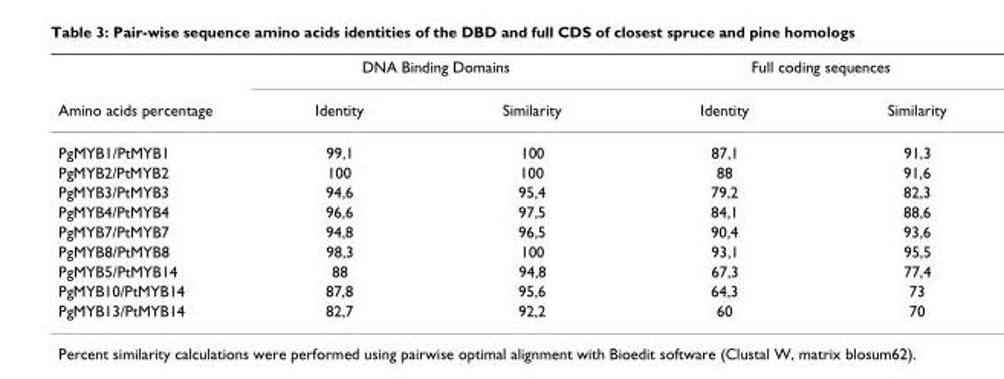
<table><thead><tr><td rowspan="2">Amino acids percentage</td><td colspan="2">DNA Binding Domains</td><td colspan="2">Full coding sequences</td></tr><tr><td>Identity</td><td>Similarity</td><td>Identity</td><td>Similarity</td></tr></thead><tbody><tr><td>PgMYB1/PtMYB1</td><td>99,1</td><td>100</td><td>87,1</td><td>91,3</td></tr><tr><td>PgMYB2/PtMYB2</td><td>100</td><td>100</td><td>88</td><td>91,6</td></tr><tr><td>PgMYB3/PtMYB3</td><td>94,6</td><td>95,4</td><td>79,2</td><td>82,3</td></tr><tr><td>PgMYB4/PtMYB4</td><td>96,6</td><td>97,5</td><td>84,1</td><td>88,6</td></tr><tr><td>PgMYB7/PtMYB7</td><td>94,8</td><td>96,5</td><td>90,4</td><td>93,6</td></tr><tr><td>PgMYB8/PtMYB8</td><td>98,3</td><td>100</td><td>93,1</td><td>95,5</td></tr><tr><td>PgMYB5/PtMYB14</td><td>88</td><td>94,8</td><td>67,3</td><td>77,4</td></tr><tr><td>PgMYB10/PtMYB14</td><td>87,8</td><td>95,6</td><td>64,3</td><td>73</td></tr><tr><td>PgMYB13/PtMYB14</td><td>82,7</td><td>92,2</td><td>60</td><td>70</td></tr></tbody></table>